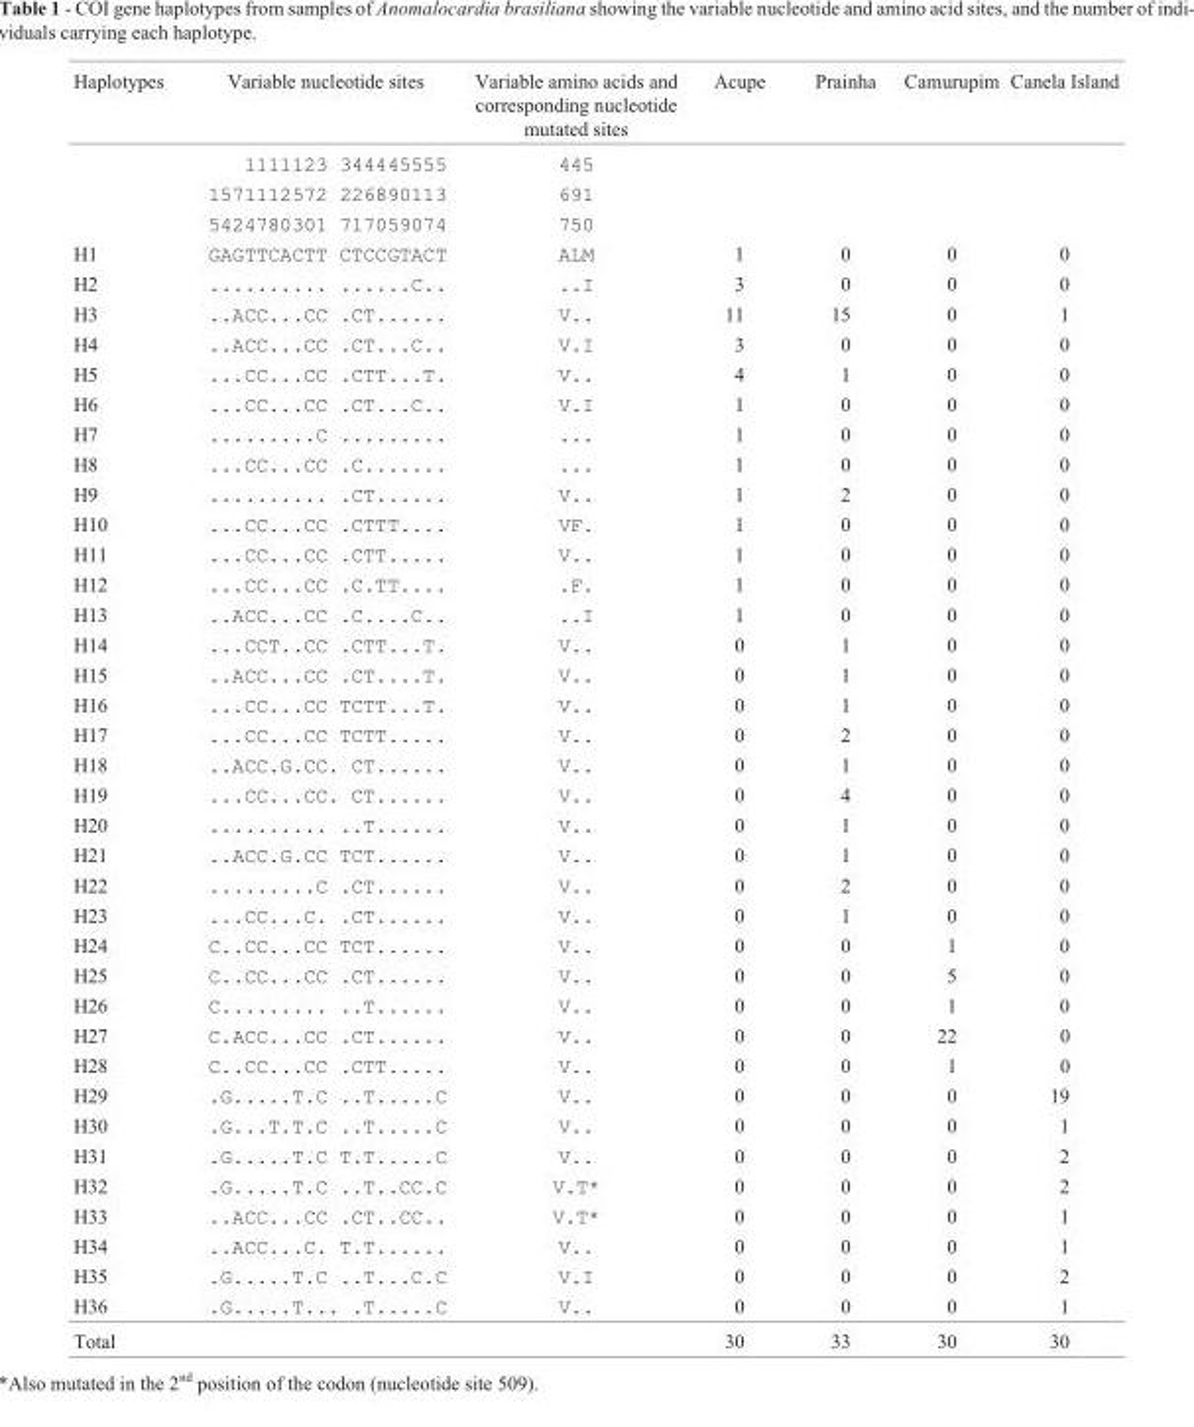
<table><thead><tr><td>Haplotypes</td><td>Variable nucleotide sites</td><td>Variable amino acids and corresponding nucleotide mutated sites</td><td>Acupe</td><td>Prainha</td><td>Camurupim</td><td>Canela Island</td></tr></thead><tbody><tr><td></td><td>1111123 344445555</td><td>445</td><td></td><td></td><td></td><td></td></tr><tr><td></td><td>1571112572 226890113</td><td>691</td><td></td><td></td><td></td><td></td></tr><tr><td></td><td>5424780301 717059074</td><td>750</td><td></td><td></td><td></td><td></td></tr><tr><td>H1</td><td>GAGTTCACTT CTCCGTACT</td><td>ALM</td><td>1</td><td>0</td><td>0</td><td>0</td></tr><tr><td>H2</td><td>.......... ......C..</td><td>..I</td><td>3</td><td>0</td><td>0</td><td>0</td></tr><tr><td>H3</td><td>..ACC...CC .CT......</td><td>V..</td><td>11</td><td>15</td><td>0</td><td>1</td></tr><tr><td>H4</td><td>..ACC...CC .CT...C..</td><td>V.I</td><td>3</td><td>0</td><td>0</td><td>0</td></tr><tr><td>H5</td><td>...CC...CC .CTT...T.</td><td>V..</td><td>4</td><td>1</td><td>0</td><td>0</td></tr><tr><td>H6</td><td>...CC...CC .CT...C..</td><td>V.I</td><td>1</td><td>0</td><td>0</td><td>0</td></tr><tr><td>H7</td><td>.........C .........</td><td>...</td><td>1</td><td>0</td><td>0</td><td>0</td></tr><tr><td>H8</td><td>...CC...CC .C.......</td><td>...</td><td>1</td><td>0</td><td>0</td><td>0</td></tr><tr><td>H9</td><td>.......... .CT......</td><td>V..</td><td>1</td><td>2</td><td>0</td><td>0</td></tr><tr><td>H10</td><td>...CC...CC .CTTT....</td><td>VF.</td><td>1</td><td>0</td><td>0</td><td>0</td></tr><tr><td>H11</td><td>...CC...CC .CTT.....</td><td>V..</td><td>1</td><td>0</td><td>0</td><td>0</td></tr><tr><td>H12</td><td>...CC...CC .C.TT....</td><td>.F.</td><td>1</td><td>0</td><td>0</td><td>0</td></tr><tr><td>H13</td><td>..ACC...CC .C....C..</td><td>..I</td><td>1</td><td>0</td><td>0</td><td>0</td></tr><tr><td>H14</td><td>...CCT..CC .CTT...T.</td><td>V..</td><td>0</td><td>1</td><td>0</td><td>0</td></tr><tr><td>H15</td><td>..ACC...CC .CT....T.</td><td>V..</td><td>0</td><td>1</td><td>0</td><td>0</td></tr><tr><td>H16</td><td>...CC...CC TCTT...T.</td><td>V..</td><td>0</td><td>1</td><td>0</td><td>0</td></tr><tr><td>H17</td><td>...CC...CC TCTT.....</td><td>V..</td><td>0</td><td>2</td><td>0</td><td>0</td></tr><tr><td>H18</td><td>..ACC.G.CC. CT......</td><td>V..</td><td>0</td><td>1</td><td>0</td><td>0</td></tr><tr><td>H19</td><td>...CC...CC. CT......</td><td>V..</td><td>0</td><td>4</td><td>0</td><td>0</td></tr><tr><td>H20</td><td>.......... ..T......</td><td>V..</td><td>0</td><td>1</td><td>0</td><td>0</td></tr><tr><td>H21</td><td>..ACC.G.CC TCT......</td><td>V..</td><td>0</td><td>1</td><td>0</td><td>0</td></tr><tr><td>H22</td><td>.........C .CT......</td><td>V..</td><td>0</td><td>2</td><td>0</td><td>0</td></tr><tr><td>H23</td><td>...CC...C. .CT......</td><td>V..</td><td>0</td><td>1</td><td>0</td><td>0</td></tr><tr><td>H24</td><td>C..CC...CC TCT......</td><td>V..</td><td>0</td><td>0</td><td>1</td><td>0</td></tr><tr><td>H25</td><td>C..CC...CC .CT......</td><td>V..</td><td>0</td><td>0</td><td>5</td><td>0</td></tr><tr><td>H26</td><td>C......... ..T......</td><td>V..</td><td>0</td><td>0</td><td>1</td><td>0</td></tr><tr><td>H27</td><td>C.ACC...CC .CT......</td><td>V..</td><td>0</td><td>0</td><td>22</td><td>0</td></tr><tr><td>H28</td><td>C..CC...CC .CTT.....</td><td>V..</td><td>0</td><td>0</td><td>1</td><td>0</td></tr><tr><td>H29</td><td>.G.....T.C ..T.....C</td><td>V..</td><td>0</td><td>0</td><td>0</td><td>19</td></tr><tr><td>H30</td><td>.G...T.T.C ..T.....C</td><td>V..</td><td>0</td><td>0</td><td>0</td><td>1</td></tr><tr><td>H31</td><td>.G.....T.C T.T.....C</td><td>V..</td><td>0</td><td>0</td><td>0</td><td>2</td></tr><tr><td>H32</td><td>.G.....T.C ..T..CC.C</td><td>V.T*</td><td>0</td><td>0</td><td>0</td><td>2</td></tr><tr><td>H33</td><td>..ACC...CC .CT..CC..</td><td>V.T*</td><td>0</td><td>0</td><td>0</td><td>1</td></tr><tr><td>H34</td><td>..ACC...C. T.T......</td><td>V..</td><td>0</td><td>0</td><td>0</td><td>1</td></tr><tr><td>H35</td><td>.G.....T.C ..T...C.C</td><td>V.I</td><td>0</td><td>0</td><td>0</td><td>2</td></tr><tr><td>H36</td><td>.G.....T... .T.....C</td><td>V..</td><td>0</td><td>0</td><td>0</td><td>1</td></tr><tr><td>Total</td><td></td><td></td><td>30</td><td>33</td><td>30</td><td>30</td></tr></tbody></table>